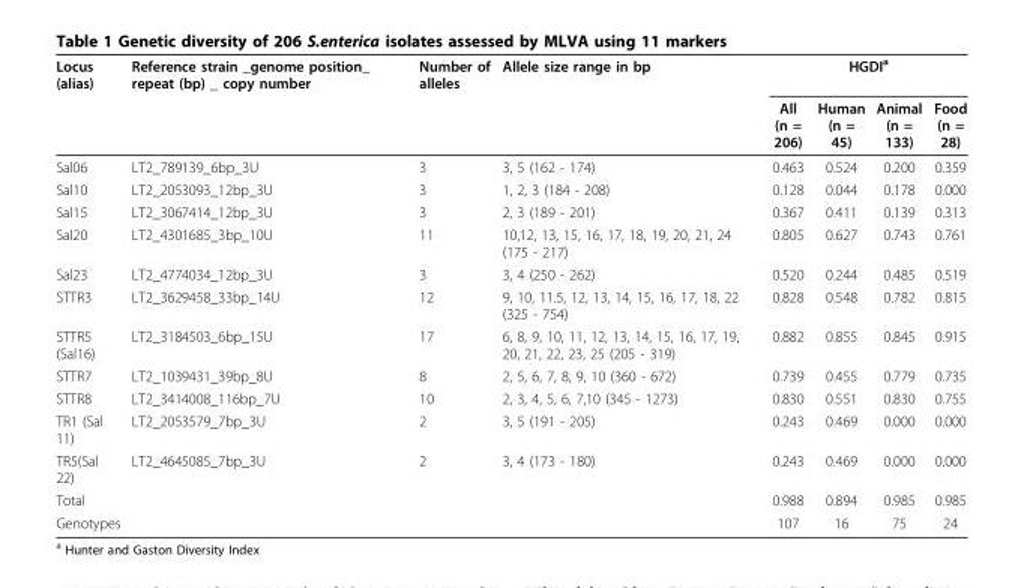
<table><thead><tr><td rowspan="2">Locus (alias)</td><td rowspan="2">Reference strain _genome position_ repeat (bp) _ copy number</td><td rowspan="2">Number of alleles</td><td rowspan="2">Allele size range in bp</td><td colspan="4">HGDI<sup>a</sup></td></tr><tr><td>All (n = 206)</td><td>Human (n = 45)</td><td>Animal (n = 133)</td><td>Food (n = 28)</td></tr></thead><tbody><tr><td>Sal06</td><td>LT2_789139_6bp_3U</td><td>3</td><td>3, 5 (162 - 174)</td><td>0.463</td><td>0.524</td><td>0.200</td><td>0.359</td></tr><tr><td>Sal10</td><td>LT2_2053093_12bp_3U</td><td>3</td><td>1, 2, 3 (184 - 208)</td><td>0.128</td><td>0.044</td><td>0.178</td><td>0.000</td></tr><tr><td>Sal15</td><td>LT2_3067414_12bp_3U</td><td>3</td><td>2, 3 (189 - 201)</td><td>0.367</td><td>0.411</td><td>0.139</td><td>0.313</td></tr><tr><td>Sal20</td><td>LT2_4301685_3bp_10U</td><td>11</td><td>10,12, 13, 15, 16, 17, 18, 19, 20, 21, 24 (175 - 217)</td><td>0.805</td><td>0.627</td><td>0.743</td><td>0.761</td></tr><tr><td>Sal23</td><td>LT2_4774034_12bp_3U</td><td>3</td><td>3, 4 (250 - 262)</td><td>0.520</td><td>0.244</td><td>0.485</td><td>0.519</td></tr><tr><td>STTR3</td><td>LT2_3629458_33bp_14U</td><td>12</td><td>9, 10, 11.5, 12, 13, 14, 15, 16, 17, 18, 22 (325 - 754)</td><td>0.828</td><td>0.548</td><td>0.782</td><td>0.815</td></tr><tr><td>STTR5 (Sal16)</td><td>LT2_3184503_6bp_15U</td><td>17</td><td>6, 8, 9, 10, 11, 12, 13, 14, 15, 16, 17, 19, 20, 21, 22, 23, 25 (205 - 319)</td><td>0.882</td><td>0.855</td><td>0.845</td><td>0.915</td></tr><tr><td>STTR7</td><td>LT2_1039431_39bp_8U</td><td>8</td><td>2, 5, 6, 7, 8, 9, 10 (360 - 672)</td><td>0.739</td><td>0.455</td><td>0.779</td><td>0.735</td></tr><tr><td>STTR8</td><td>LT2_3414008_116bp_7U</td><td>10</td><td>2, 3, 4, 5, 6, 7,10 (345 - 1273)</td><td>0.830</td><td>0.551</td><td>0.830</td><td>0.755</td></tr><tr><td>TR1 (Sal 11)</td><td>LT2_2053579_7bp_3U</td><td>2</td><td>3, 5 (191 - 205)</td><td>0.243</td><td>0.469</td><td>0.000</td><td>0.000</td></tr><tr><td>TR5(Sal 22)</td><td>LT2_4645085_7bp_3U</td><td>2</td><td>3, 4 (173 - 180)</td><td>0.243</td><td>0.469</td><td>0.000</td><td>0.000</td></tr><tr><td>Total</td><td></td><td></td><td></td><td>0.988</td><td>0.894</td><td>0.985</td><td>0.985</td></tr><tr><td>Genotypes</td><td></td><td></td><td></td><td>107</td><td>16</td><td>75</td><td>24</td></tr></tbody></table>